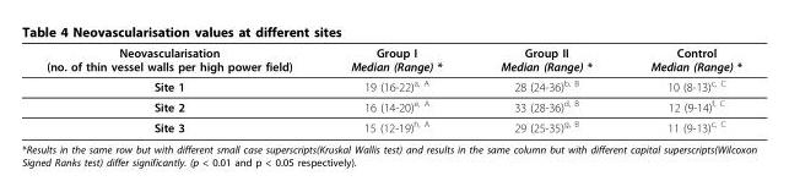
<table><thead><tr><td>Neovascularisation (no. of thin vessel walls per high power field)</td><td>Group I Median (Range) *</td><td>Group II Median (Range) *</td><td>Control Median (Range) *</td></tr></thead><tbody><tr><td>Site 1</td><td>19 (16-22)<sup>a, A</sup></td><td>28 (24-36)<sup>b, B</sup></td><td>10 (8-13)<sup>c, C</sup></td></tr><tr><td>Site 2</td><td>16 (14-20)<sup>e, A</sup></td><td>33 (28-36)<sup>d, B</sup></td><td>12 (9-14)<sup>f, C</sup></td></tr><tr><td>Site 3</td><td>15 (12-19)<sup>h, A</sup></td><td>29 (25-35)<sup>g, B</sup></td><td>11 (9-13)<sup>c, C</sup></td></tr></tbody></table>